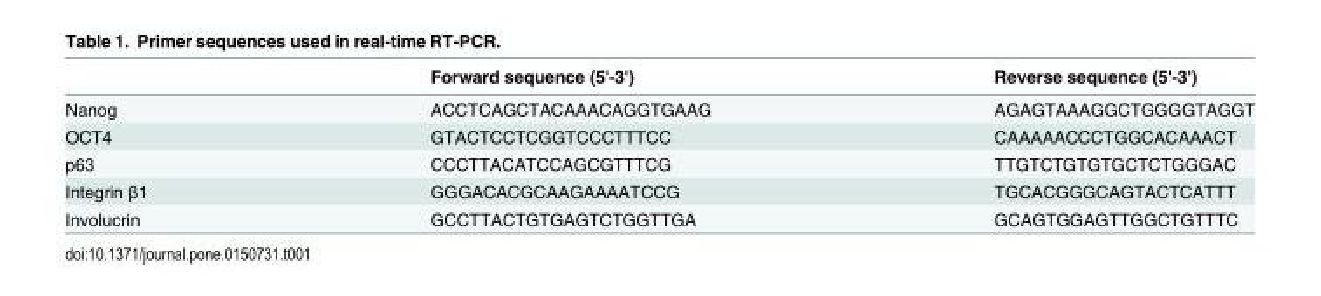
<table><thead><tr><td></td><td>Forward sequence (5&#x27;-3&#x27;)</td><td>Reverse sequence (5&#x27;-3&#x27;)</td></tr></thead><tbody><tr><td>Nanog</td><td>ACCTCAGCTACAAACAGGTGAAG</td><td>AGAGTAAAGGCTGGGGTAGGT</td></tr><tr><td>OCT4</td><td>GTACTCCTCGGTCCCTTTCC</td><td>CAAAAACCCTGGCACAAACT</td></tr><tr><td>p63</td><td>CCCTTACATCCAGCGTTTCG</td><td>TTGTCTGTGTGCTCTGGGAC</td></tr><tr><td>Integrin β1</td><td>GGGACACGCAAGAAAATCCG</td><td>TGCACGGGCAGTACTCATTT</td></tr><tr><td>Involucrin</td><td>GCCTTACTGTGAGTCTGGTTGA</td><td>GCAGTGGAGTTGGCTGTTTC</td></tr></tbody></table>